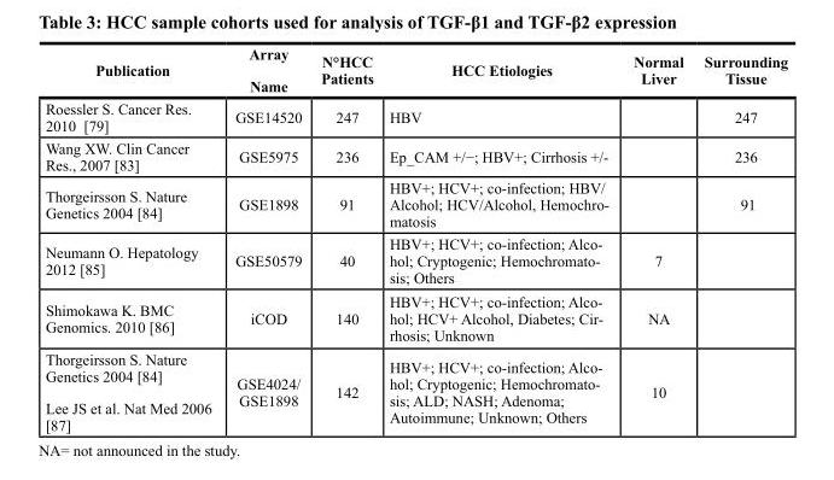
<table><thead><tr><td>Publication</td><td>Array Name</td><td>N°HCC Patients</td><td>HCC Etiologies</td><td>Normal Liver</td><td>Surrounding Tissue</td></tr></thead><tbody><tr><td>Roessler S. Cancer Res. 2010 [79]</td><td>GSE14520</td><td>247</td><td>HBV</td><td></td><td>247</td></tr><tr><td>Wang XW. Clin Cancer Res., 2007 [83]</td><td>GSE5975</td><td>236</td><td>Ep_CAM +/−; HBV+; Cirrhosis +/-</td><td></td><td>236</td></tr><tr><td>Thorgeirsson S. Nature Genetics 2004 [84]</td><td>GSE1898</td><td>91</td><td>HBV+; HCV+; co-infection; HBV/ Alcohol; HCV/Alcohol, Hemochro- matosis</td><td></td><td>91</td></tr><tr><td>Neumann O. Hepatology 2012 [85]</td><td>GSE50579</td><td>40</td><td>HBV+; HCV+; co-infection; Alco- hol; Cryptogenic; Hemochromato- sis; Others</td><td>7</td><td></td></tr><tr><td>Shimokawa K. BMC Genomics. 2010 [86]</td><td>iCOD</td><td>140</td><td>HBV+; HCV+; co-infection; Alco- hol; HCV+ Alcohol, Diabetes; Cir- rhosis; Unknown</td><td>NA</td><td></td></tr><tr><td>Thorgeirsson S. Nature Genetics 2004 [84] Lee JS et al. Nat Med 2006 [87]</td><td>GSE4024/ GSE1898</td><td>142</td><td>HBV+; HCV+; co-infection; Alco- hol; Cryptogenic; Hemochromato- sis; ALD; NASH; Adenoma; Autoimmune; Unknown; Others</td><td>10</td><td></td></tr></tbody></table>